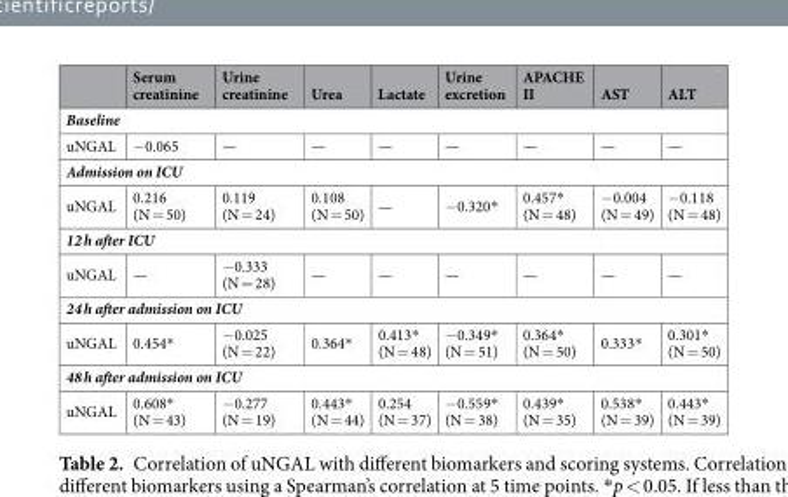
<table><thead><tr><td></td><td>Serum creatinine</td><td>Urine creatinine</td><td>Urea</td><td>Lactate</td><td>Urine excretion</td><td>APACHE II</td><td>AST</td><td>ALT</td></tr></thead><tbody><tr><td colspan="9">Baseline</td></tr><tr><td>uNGAL</td><td>−0.065</td><td>—</td><td>—</td><td>—</td><td>—</td><td>—</td><td>—</td><td>—</td></tr><tr><td colspan="9">Admission on ICU</td></tr><tr><td>uNGAL</td><td>0.216 (N = 50)</td><td>0.119 (N = 24)</td><td>0.108 (N = 50)</td><td>—</td><td>−0.320*</td><td>0.457* (N = 48)</td><td>−0.004 (N = 49)</td><td>−0.118 (N = 48)</td></tr><tr><td colspan="9">12 h after ICU</td></tr><tr><td>uNGAL</td><td>—</td><td>−0.333 (N = 28)</td><td>—</td><td>—</td><td>—</td><td>—</td><td>—</td><td>—</td></tr><tr><td colspan="9">24 h after admission on ICU</td></tr><tr><td>uNGAL</td><td>0.454*</td><td>−0.025 (N = 22)</td><td>0.364*</td><td>0.413* (N = 48)</td><td>−0.349* (N = 51)</td><td>0.364* (N = 50)</td><td>0.333*</td><td>0.301* (N = 50)</td></tr><tr><td colspan="9">48 h after admission on ICU</td></tr><tr><td>uNGAL</td><td>0.608* (N = 43)</td><td>−0.277 (N = 19)</td><td>0.443* (N = 44)</td><td>0.254 (N = 37)</td><td>−0.559* (N = 38)</td><td>0.439* (N = 35)</td><td>0.538* (N = 39)</td><td>0.443* (N = 39)</td></tr></tbody></table>